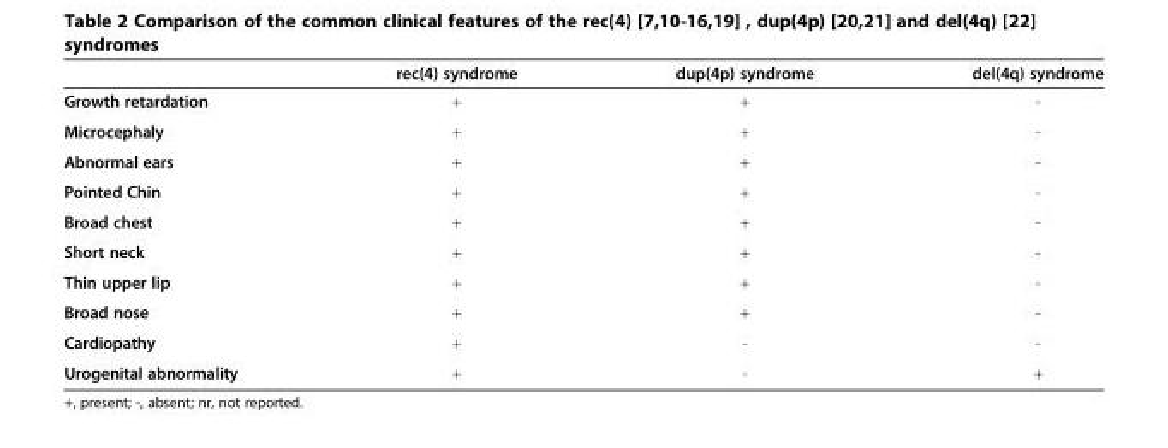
<table><thead><tr><td></td><td>rec(4) syndrome</td><td>dup(4p) syndrome</td><td>del(4q) syndrome</td></tr></thead><tbody><tr><td>Growth retardation</td><td>+</td><td>+</td><td>-</td></tr><tr><td>Microcephaly</td><td>+</td><td>+</td><td>-</td></tr><tr><td>Abnormal ears</td><td>+</td><td>+</td><td>-</td></tr><tr><td>Pointed Chin</td><td>+</td><td>+</td><td>-</td></tr><tr><td>Broad chest</td><td>+</td><td>+</td><td>-</td></tr><tr><td>Short neck</td><td>+</td><td>+</td><td>-</td></tr><tr><td>Thin upper lip</td><td>+</td><td>+</td><td>-</td></tr><tr><td>Broad nose</td><td>+</td><td>+</td><td>-</td></tr><tr><td>Cardiopathy</td><td>+</td><td>-</td><td>-</td></tr><tr><td>Urogenital abnormality</td><td>+</td><td>-</td><td>+</td></tr></tbody></table>